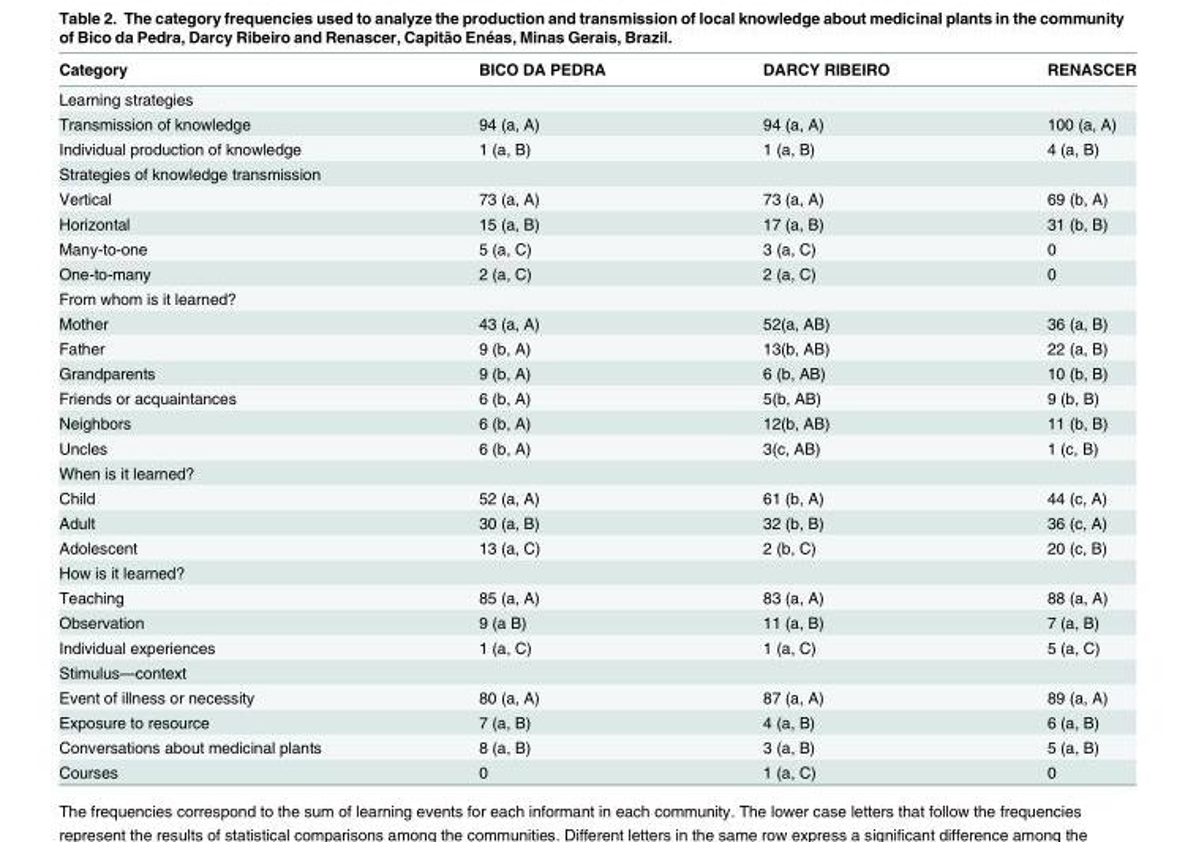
<table><thead><tr><td>Category</td><td>BICO DA PEDRA</td><td>DARCY RIBEIRO</td><td>RENASCER</td></tr></thead><tbody><tr><td colspan="4">Learning strategies</td></tr><tr><td>Transmission of knowledge</td><td>94 (a, A)</td><td>94 (a, A)</td><td>100 (a, A)</td></tr><tr><td>Individual production of knowledge</td><td>1 (a, B)</td><td>1 (a, B)</td><td>4 (a, B)</td></tr><tr><td colspan="4">Strategies of knowledge transmission</td></tr><tr><td>Vertical</td><td>73 (a, A)</td><td>73 (a, A)</td><td>69 (b, A)</td></tr><tr><td>Horizontal</td><td>15 (a, B)</td><td>17 (a, B)</td><td>31 (b, B)</td></tr><tr><td>Many-to-one</td><td>5 (a, C)</td><td>3 (a, C)</td><td>0</td></tr><tr><td>One-to-many</td><td>2 (a, C)</td><td>2 (a, C)</td><td>0</td></tr><tr><td colspan="4">From whom is it learned?</td></tr><tr><td>Mother</td><td>43 (a, A)</td><td>52(a, AB)</td><td>36 (a, B)</td></tr><tr><td>Father</td><td>9 (b, A)</td><td>13(b, AB)</td><td>22 (a, B)</td></tr><tr><td>Grandparents</td><td>9 (b, A)</td><td>6 (b, AB)</td><td>10 (b, B)</td></tr><tr><td>Friends or acquaintances</td><td>6 (b, A)</td><td>5(b, AB)</td><td>9 (b, B)</td></tr><tr><td>Neighbors</td><td>6 (b, A)</td><td>12(b, AB)</td><td>11 (b, B)</td></tr><tr><td>Uncles</td><td>6 (b, A)</td><td>3(c, AB)</td><td>1 (c, B)</td></tr><tr><td colspan="4">When is it learned?</td></tr><tr><td>Child</td><td>52 (a, A)</td><td>61 (b, A)</td><td>44 (c, A)</td></tr><tr><td>Adult</td><td>30 (a, B)</td><td>32 (b, B)</td><td>36 (c, A)</td></tr><tr><td>Adolescent</td><td>13 (a, C)</td><td>2 (b, C)</td><td>20 (c, B)</td></tr><tr><td colspan="4">How is it learned?</td></tr><tr><td>Teaching</td><td>85 (a, A)</td><td>83 (a, A)</td><td>88 (a, A)</td></tr><tr><td>Observation</td><td>9 (a B)</td><td>11 (a, B)</td><td>7 (a, B)</td></tr><tr><td>Individual experiences</td><td>1 (a, C)</td><td>1 (a, C)</td><td>5 (a, C)</td></tr><tr><td colspan="4">Stimulus—context</td></tr><tr><td>Event of illness or necessity</td><td>80 (a, A)</td><td>87 (a, A)</td><td>89 (a, A)</td></tr><tr><td>Exposure to resource</td><td>7 (a, B)</td><td>4 (a, B)</td><td>6 (a, B)</td></tr><tr><td>Conversations about medicinal plants</td><td>8 (a, B)</td><td>3 (a, B)</td><td>5 (a, B)</td></tr><tr><td>Courses</td><td>0</td><td>1 (a, C)</td><td>0</td></tr></tbody></table>